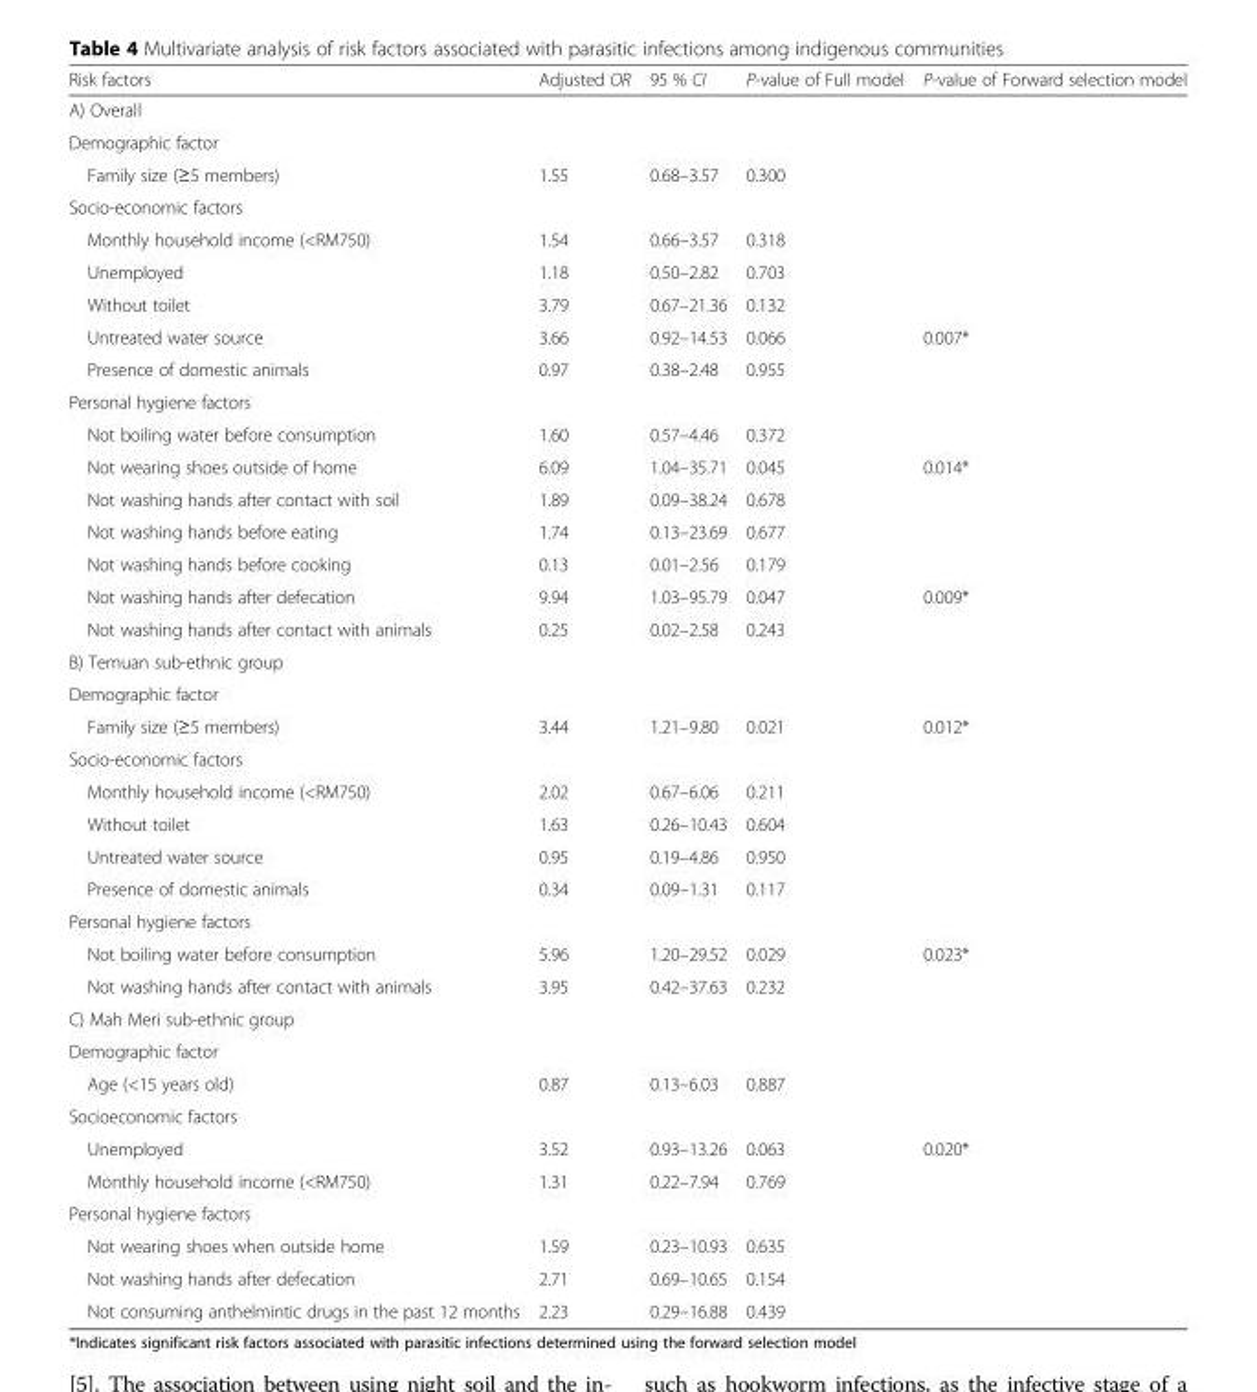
<table><thead><tr><td>Risk factors</td><td>Adjusted OR</td><td>95 % CI</td><td>P-value of Full model</td><td>P-value of Forward selection model</td></tr></thead><tbody><tr><td colspan="5">A) Overall</td></tr><tr><td colspan="5">Demographic factor</td></tr><tr><td>Family size (≥5 members)</td><td>1.55</td><td>0.68–3.57</td><td>0.300</td><td></td></tr><tr><td colspan="5">Socio-economic factors</td></tr><tr><td>Monthly household income (&lt;RM750)</td><td>1.54</td><td>0.66–3.57</td><td>0.318</td><td></td></tr><tr><td>Unemployed</td><td>1.18</td><td>0.50–2.82</td><td>0.703</td><td></td></tr><tr><td>Without toilet</td><td>3.79</td><td>0.67–21.36</td><td>0.132</td><td></td></tr><tr><td>Untreated water source</td><td>3.66</td><td>0.92–14.53</td><td>0.066</td><td>0.007*</td></tr><tr><td>Presence of domestic animals</td><td>0.97</td><td>0.38–2.48</td><td>0.955</td><td></td></tr><tr><td colspan="5">Personal hygiene factors</td></tr><tr><td>Not boiling water before consumption</td><td>1.60</td><td>0.57–4.46</td><td>0.372</td><td></td></tr><tr><td>Not wearing shoes outside of home</td><td>6.09</td><td>1.04–35.71</td><td>0.045</td><td>0.014*</td></tr><tr><td>Not washing hands after contact with soil</td><td>1.89</td><td>0.09–38.24</td><td>0.678</td><td></td></tr><tr><td>Not washing hands before eating</td><td>1.74</td><td>0.13–23.69</td><td>0.677</td><td></td></tr><tr><td>Not washing hands before cooking</td><td>0.13</td><td>0.01–2.56</td><td>0.179</td><td></td></tr><tr><td>Not washing hands after defecation</td><td>9.94</td><td>1.03–95.79</td><td>0.047</td><td>0.009*</td></tr><tr><td>Not washing hands after contact with animals</td><td>0.25</td><td>0.02–2.58</td><td>0.243</td><td></td></tr><tr><td colspan="5">B) Temuan sub-ethnic group</td></tr><tr><td colspan="5">Demographic factor</td></tr><tr><td>Family size (≥5 members)</td><td>3.44</td><td>1.21–9.80</td><td>0.021</td><td>0.012*</td></tr><tr><td colspan="5">Socio-economic factors</td></tr><tr><td>Monthly household income (&lt;RM750)</td><td>2.02</td><td>0.67–6.06</td><td>0.211</td><td></td></tr><tr><td>Without toilet</td><td>1.63</td><td>0.26–10.43</td><td>0.604</td><td></td></tr><tr><td>Untreated water source</td><td>0.95</td><td>0.19–4.86</td><td>0.950</td><td></td></tr><tr><td>Presence of domestic animals</td><td>0.34</td><td>0.09–1.31</td><td>0.117</td><td></td></tr><tr><td colspan="5">Personal hygiene factors</td></tr><tr><td>Not boiling water before consumption</td><td>5.96</td><td>1.20–29.52</td><td>0.029</td><td>0.023*</td></tr><tr><td>Not washing hands after contact with animals</td><td>3.95</td><td>0.42–37.63</td><td>0.232</td><td></td></tr><tr><td colspan="5">C) Mah Meri sub-ethnic group</td></tr><tr><td colspan="5">Demographic factor</td></tr><tr><td>Age (&lt;15 years old)</td><td>0.87</td><td>0.13–6.03</td><td>0.887</td><td></td></tr><tr><td colspan="5">Socioeconomic factors</td></tr><tr><td>Unemployed</td><td>3.52</td><td>0.93–13.26</td><td>0.063</td><td>0.020*</td></tr><tr><td>Monthly household income (&lt;RM750)</td><td>1.31</td><td>0.22–7.94</td><td>0.769</td><td></td></tr><tr><td colspan="5">Personal hygiene factors</td></tr><tr><td>Not wearing shoes when outside home</td><td>1.59</td><td>0.23–10.93</td><td>0.635</td><td></td></tr><tr><td>Not washing hands after defecation</td><td>2.71</td><td>0.69–10.65</td><td>0.154</td><td></td></tr><tr><td>Not consuming anthelmintic drugs in the past 12 months</td><td>2.23</td><td>0.29–16.88</td><td>0.439</td><td></td></tr></tbody></table>